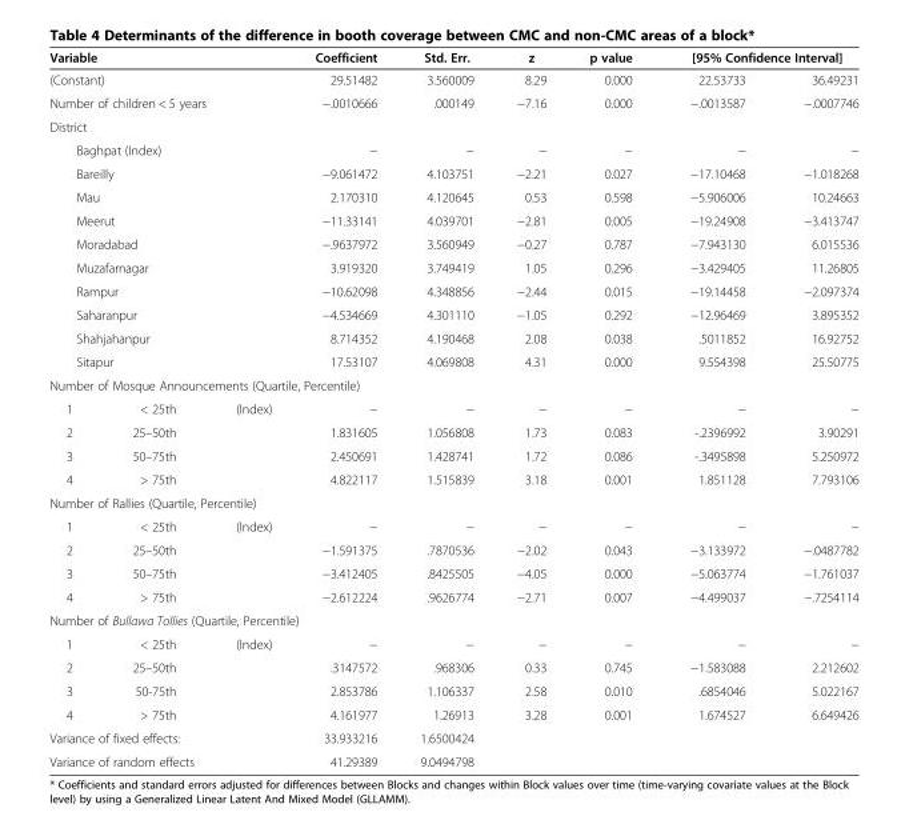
<table><thead><tr><td colspan="3">Variable</td><td>Coefficient</td><td>Std. Err.</td><td>z</td><td>p value</td><td colspan="2">[95% Confidence Interval]</td></tr></thead><tbody><tr><td colspan="3">(Constant)</td><td>29.51482</td><td>3.560009</td><td>8.29</td><td>0.000</td><td>22.53733</td><td>36.49231</td></tr><tr><td colspan="3">Number of children &lt; 5 years</td><td>−.0010666</td><td>.000149</td><td>−7.16</td><td>0.000</td><td>−.0013587</td><td>−.0007746</td></tr><tr><td colspan="9">District</td></tr><tr><td colspan="3">Baghpat (Index)</td><td>−</td><td>−</td><td>−</td><td>−</td><td>−</td><td>−</td></tr><tr><td colspan="3">Bareilly</td><td>−9.061472</td><td>4.103751</td><td>−2.21</td><td>0.027</td><td>−17.10468</td><td>−1.018268</td></tr><tr><td colspan="3">Mau</td><td>2.170310</td><td>4.120645</td><td>0.53</td><td>0.598</td><td>−5.906006</td><td>10.24663</td></tr><tr><td colspan="3">Meerut</td><td>−11.33141</td><td>4.039701</td><td>−2.81</td><td>0.005</td><td>−19.24908</td><td>−3.413747</td></tr><tr><td colspan="3">Moradabad</td><td>−.9637972</td><td>3.560949</td><td>−0.27</td><td>0.787</td><td>−7.943130</td><td>6.015536</td></tr><tr><td colspan="3">Muzafarnagar</td><td>3.919320</td><td>3.749419</td><td>1.05</td><td>0.296</td><td>−3.429405</td><td>11.26805</td></tr><tr><td colspan="3">Rampur</td><td>−10.62098</td><td>4.348856</td><td>−2.44</td><td>0.015</td><td>−19.14458</td><td>−2.097374</td></tr><tr><td colspan="3">Saharanpur</td><td>−4.534669</td><td>4.301110</td><td>−1.05</td><td>0.292</td><td>−12.96469</td><td>3.895352</td></tr><tr><td colspan="3">Shahjahanpur</td><td>8.714352</td><td>4.190468</td><td>2.08</td><td>0.038</td><td>.5011852</td><td>16.92752</td></tr><tr><td colspan="3">Sitapur</td><td>17.53107</td><td>4.069808</td><td>4.31</td><td>0.000</td><td>9.554398</td><td>25.50775</td></tr><tr><td colspan="9">Number of Mosque Announcements (Quartile, Percentile)</td></tr><tr><td>1</td><td>&lt; 25th</td><td rowspan="4">(Index)</td><td>−</td><td>−</td><td>−</td><td>−</td><td>−</td><td>−</td></tr><tr><td>2</td><td>25–50th</td><td>1.831605</td><td>1.056808</td><td>1.73</td><td>0.083</td><td>-.2396992</td><td>3.90291</td></tr><tr><td>3</td><td>50–75th</td><td>2.450691</td><td>1.428741</td><td>1.72</td><td>0.086</td><td>-.3495898</td><td>5.250972</td></tr><tr><td>4</td><td>&gt; 75th</td><td>4.822117</td><td>1.515839</td><td>3.18</td><td>0.001</td><td>1.851128</td><td>7.793106</td></tr><tr><td colspan="9">Number of Rallies (Quartile, Percentile)</td></tr><tr><td>1</td><td>&lt; 25th</td><td rowspan="4">(Index)</td><td>−</td><td>−</td><td>−</td><td>−</td><td>−</td><td>−</td></tr><tr><td>2</td><td>25–50th</td><td>−1.591375</td><td>.7870536</td><td>−2.02</td><td>0.043</td><td>−3.133972</td><td>−.0487782</td></tr><tr><td>3</td><td>50–75th</td><td>−3.412405</td><td>.8425505</td><td>−4.05</td><td>0.000</td><td>−5.063774</td><td>−1.761037</td></tr><tr><td>4</td><td>&gt; 75th</td><td>−2.612224</td><td>.9626774</td><td>−2.71</td><td>0.007</td><td>−4.499037</td><td>−.7254114</td></tr><tr><td colspan="9">Number of Bullawa Tollies (Quartile, Percentile)</td></tr><tr><td>1</td><td>&lt; 25th</td><td rowspan="4">(Index)</td><td>−</td><td>−</td><td>−</td><td>−</td><td>−</td><td>−</td></tr><tr><td>2</td><td>25–50th</td><td>.3147572</td><td>.968306</td><td>0.33</td><td>0.745</td><td>−1.583088</td><td>2.212602</td></tr><tr><td>3</td><td>50-75th</td><td>2.853786</td><td>1.106337</td><td>2.58</td><td>0.010</td><td>.6854046</td><td>5.022167</td></tr><tr><td>4</td><td>&gt; 75th</td><td>4.161977</td><td>1.26913</td><td>3.28</td><td>0.001</td><td>1.674527</td><td>6.649426</td></tr><tr><td colspan="3">Variance of fixed effects:</td><td>33.933216</td><td>1.6500424</td><td></td><td></td><td></td><td></td></tr><tr><td colspan="3">Variance of random effects</td><td>41.29389</td><td>9.0494798</td><td></td><td></td><td></td><td></td></tr></tbody></table>